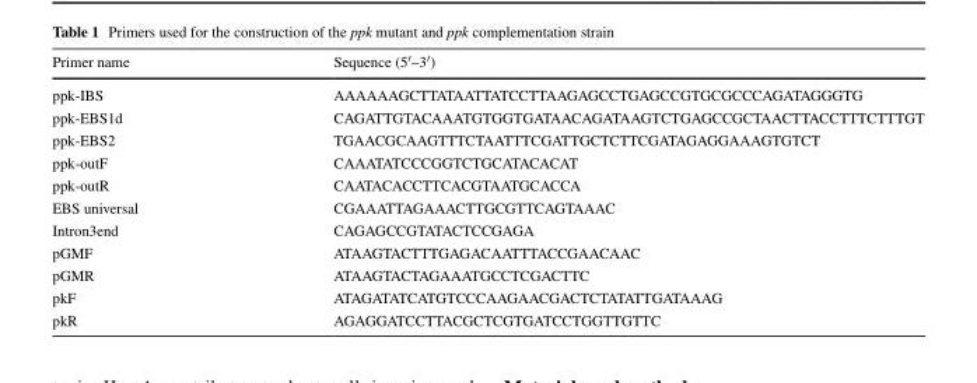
<table><thead><tr><td>Primer name</td><td>Sequence (5′–3′)</td></tr></thead><tbody><tr><td>ppk-IBS</td><td>AAAAAAGCTTATAATTATCCTTAAGAGCCTGAGCCGTGCGCCCAGATAGGGTG</td></tr><tr><td>ppk-EBS1d</td><td>CAGATTGTACAAATGTGGTGATAACAGATAAGTCTGAGCCGCTAACTTACCTTTCTTTGT</td></tr><tr><td>ppk-EBS2</td><td>TGAACGCAAGTTTCTAATTTCGATTGCTCTTCGATAGAGGAAAGTGTCT</td></tr><tr><td>ppk-outF</td><td>CAAATATCCCGGTCTGCATACACAT</td></tr><tr><td>ppk-outR</td><td>CAATACACCTTCACGTAATGCACCA</td></tr><tr><td>EBS universal</td><td>CGAAATTAGAAACTTGCGTTCAGTAAAC</td></tr><tr><td>Intron3end</td><td>CAGAGCCGTATACTCCGAGA</td></tr><tr><td>pGMF</td><td>ATAAGTACTTTGAGACAATTTACCGAACAAC</td></tr><tr><td>pGMR</td><td>ATAAGTACTAGAAATGCCTCGACTTC</td></tr><tr><td>pkF</td><td>ATAGATATCATGTCCCAAGAACGACTCTATATTGATAAAG</td></tr><tr><td>pkR</td><td>AGAGGATCCTTACGCTCGTGATCCTGGTTGTTC</td></tr></tbody></table>